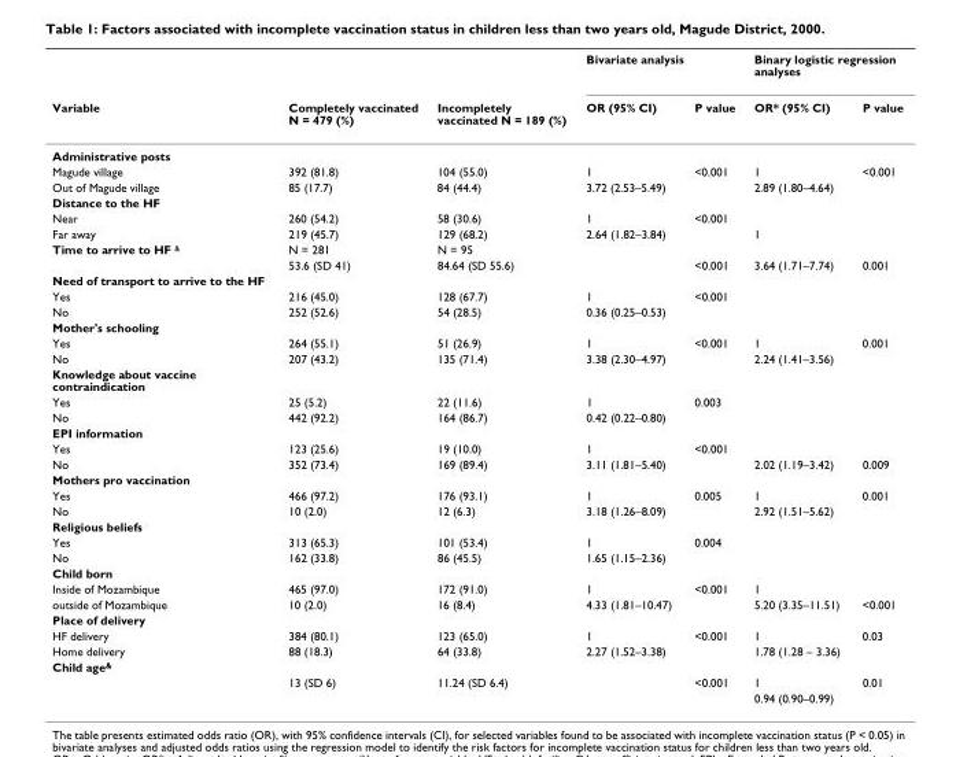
<table><thead><tr><td rowspan="2">Variable</td><td rowspan="2">Completely vaccinated N = 479 (%)</td><td rowspan="2">Incompletely vaccinated N = 189 (%)</td><td colspan="2">Bivariate analysis</td><td colspan="2">Binary logistic regression analyses</td></tr><tr><td>OR (95% CI)</td><td>P value</td><td>OR* (95% CI)</td><td>P value</td></tr></thead><tbody><tr><td colspan="7">Administrative posts</td></tr><tr><td>Magude village</td><td>392 (81.8)</td><td>104 (55.0)</td><td>1</td><td>&lt;0.001</td><td>1</td><td>&lt;0.001</td></tr><tr><td>Out of Magude village</td><td>85 (17.7)</td><td>84 (44.4)</td><td>3.72 (2.53–5.49)</td><td></td><td>2.89 (1.80–4.64)</td><td></td></tr><tr><td colspan="7">Distance to the HF</td></tr><tr><td>Near</td><td>260 (54.2)</td><td>58 (30.6)</td><td>1</td><td>&lt;0.001</td><td></td><td></td></tr><tr><td>Far away</td><td>219 (45.7)</td><td>129 (68.2)</td><td>2.64 (1.82–3.84)</td><td></td><td>1</td><td></td></tr><tr><td rowspan="2">Time to arrive to HF <sup>&amp;</sup></td><td>N = 281</td><td>N = 95</td><td></td><td></td><td></td><td></td></tr><tr><td>53.6 (SD 41)</td><td>84.64 (SD 55.6)</td><td></td><td>&lt;0.001</td><td>3.64 (1.71–7.74)</td><td>0.001</td></tr><tr><td colspan="7">Need of transport to arrive to the HF</td></tr><tr><td>Yes</td><td>216 (45.0)</td><td>128 (67.7)</td><td>1</td><td>&lt;0.001</td><td></td><td></td></tr><tr><td>No</td><td>252 (52.6)</td><td>54 (28.5)</td><td>0.36 (0.25–0.53)</td><td></td><td></td><td></td></tr><tr><td colspan="7">Mother&#x27;s schooling</td></tr><tr><td>Yes</td><td>264 (55.1)</td><td>51 (26.9)</td><td>1</td><td>&lt;0.001</td><td>1</td><td>0.001</td></tr><tr><td>No</td><td>207 (43.2)</td><td>135 (71.4)</td><td>3.38 (2.30–4.97)</td><td></td><td>2.24 (1.41–3.56)</td><td></td></tr><tr><td colspan="7">Knowledge about vaccine contraindication</td></tr><tr><td>Yes</td><td>25 (5.2)</td><td>22 (11.6)</td><td>1</td><td>0.003</td><td></td><td></td></tr><tr><td>No</td><td>442 (92.2)</td><td>164 (86.7)</td><td>0.42 (0.22–0.80)</td><td></td><td></td><td></td></tr><tr><td colspan="7">EPI information</td></tr><tr><td>Yes</td><td>123 (25.6)</td><td>19 (10.0)</td><td>1</td><td>&lt;0.001</td><td></td><td></td></tr><tr><td>No</td><td>352 (73.4)</td><td>169 (89.4)</td><td>3.11 (1.81–5.40)</td><td></td><td>2.02 (1.19–3.42)</td><td>0.009</td></tr><tr><td colspan="7">Mothers pro vaccination</td></tr><tr><td>Yes</td><td>466 (97.2)</td><td>176 (93.1)</td><td>1</td><td>0.005</td><td>1</td><td>0.001</td></tr><tr><td>No</td><td>10 (2.0)</td><td>12 (6.3)</td><td>3.18 (1.26–8.09)</td><td></td><td>2.92 (1.51–5.62)</td><td></td></tr><tr><td colspan="7">Religious beliefs</td></tr><tr><td>Yes</td><td>313 (65.3)</td><td>101 (53.4)</td><td>1</td><td>0.004</td><td></td><td></td></tr><tr><td>No</td><td>162 (33.8)</td><td>86 (45.5)</td><td>1.65 (1.15–2.36)</td><td></td><td></td><td></td></tr><tr><td colspan="7">Child born</td></tr><tr><td>Inside of Mozambique</td><td>465 (97.0)</td><td>172 (91.0)</td><td>1</td><td>&lt;0.001</td><td>1</td><td></td></tr><tr><td>outside of Mozambique</td><td>10 (2.0)</td><td>16 (8.4)</td><td>4.33 (1.81–10.47)</td><td></td><td>5.20 (3.35–11.51)</td><td>&lt;0.001</td></tr><tr><td colspan="7">Place of delivery</td></tr><tr><td>HF delivery</td><td>384 (80.1)</td><td>123 (65.0)</td><td>1</td><td>&lt;0.001</td><td>1</td><td>0.03</td></tr><tr><td>Home delivery</td><td>88 (18.3)</td><td>64 (33.8)</td><td>2.27 (1.52–3.38)</td><td></td><td>1.78 (1.28 – 3.36)</td><td></td></tr><tr><td colspan="7">Child age<sup>&amp;</sup></td></tr><tr><td></td><td>13 (SD 6)</td><td>11.24 (SD 6.4)</td><td></td><td>&lt;0.001</td><td>1</td><td>0.01</td></tr><tr><td></td><td></td><td></td><td></td><td></td><td>0.94 (0.90–0.99)</td><td></td></tr></tbody></table>